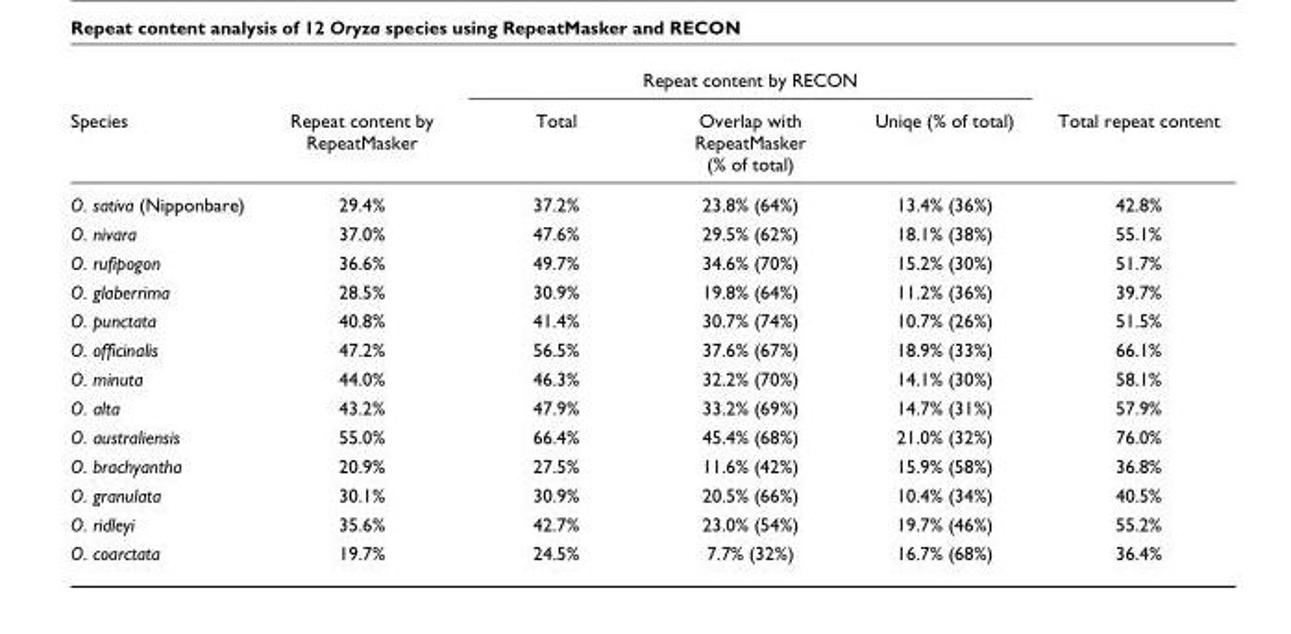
<table><thead><tr><td rowspan="2">Species</td><td rowspan="2">Repeat content by RepeatMasker</td><td colspan="3">Repeat content by RECON</td><td rowspan="2">Total repeat content</td></tr><tr><td>Total</td><td>Overlap with RepeatMasker (% of total)</td><td>Uniqe (% of total)</td></tr></thead><tbody><tr><td>O. sativa (Nipponbare)</td><td>29.4%</td><td>37.2%</td><td>23.8% (64%)</td><td>13.4% (36%)</td><td>42.8%</td></tr><tr><td>O. nivara</td><td>37.0%</td><td>47.6%</td><td>29.5% (62%)</td><td>18.1% (38%)</td><td>55.1%</td></tr><tr><td>O. rufipogon</td><td>36.6%</td><td>49.7%</td><td>34.6% (70%)</td><td>15.2% (30%)</td><td>51.7%</td></tr><tr><td>O. glaberrima</td><td>28.5%</td><td>30.9%</td><td>19.8% (64%)</td><td>11.2% (36%)</td><td>39.7%</td></tr><tr><td>O. punctata</td><td>40.8%</td><td>41.4%</td><td>30.7% (74%)</td><td>10.7% (26%)</td><td>51.5%</td></tr><tr><td>O. officinalis</td><td>47.2%</td><td>56.5%</td><td>37.6% (67%)</td><td>18.9% (33%)</td><td>66.1%</td></tr><tr><td>O. minuta</td><td>44.0%</td><td>46.3%</td><td>32.2% (70%)</td><td>14.1% (30%)</td><td>58.1%</td></tr><tr><td>O. alta</td><td>43.2%</td><td>47.9%</td><td>33.2% (69%)</td><td>14.7% (31%)</td><td>57.9%</td></tr><tr><td>O. australiensis</td><td>55.0%</td><td>66.4%</td><td>45.4% (68%)</td><td>21.0% (32%)</td><td>76.0%</td></tr><tr><td>O. brachyantha</td><td>20.9%</td><td>27.5%</td><td>11.6% (42%)</td><td>15.9% (58%)</td><td>36.8%</td></tr><tr><td>O. granulata</td><td>30.1%</td><td>30.9%</td><td>20.5% (66%)</td><td>10.4% (34%)</td><td>40.5%</td></tr><tr><td>O. ridleyi</td><td>35.6%</td><td>42.7%</td><td>23.0% (54%)</td><td>19.7% (46%)</td><td>55.2%</td></tr><tr><td>O. coarctata</td><td>19.7%</td><td>24.5%</td><td>7.7% (32%)</td><td>16.7% (68%)</td><td>36.4%</td></tr></tbody></table>